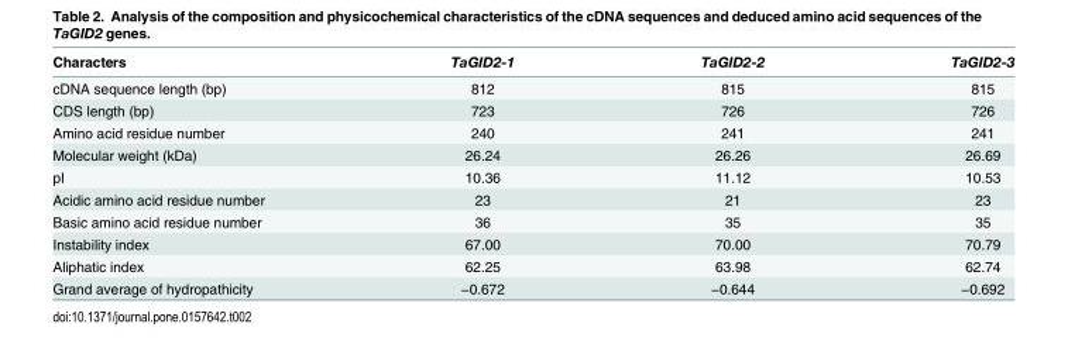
<table><thead><tr><td>Characters</td><td>TaGID2-1</td><td>TaGID2-2</td><td>TaGID2-3</td></tr></thead><tbody><tr><td>cDNA sequence length (bp)</td><td>812</td><td>815</td><td>815</td></tr><tr><td>CDS length (bp)</td><td>723</td><td>726</td><td>726</td></tr><tr><td>Amino acid residue number</td><td>240</td><td>241</td><td>241</td></tr><tr><td>Molecular weight (kDa)</td><td>26.24</td><td>26.26</td><td>26.69</td></tr><tr><td>pI</td><td>10.36</td><td>11.12</td><td>10.53</td></tr><tr><td>Acidic amino acid residue number</td><td>23</td><td>21</td><td>23</td></tr><tr><td>Basic amino acid residue number</td><td>36</td><td>35</td><td>35</td></tr><tr><td>Instability index</td><td>67.00</td><td>70.00</td><td>70.79</td></tr><tr><td>Aliphatic index</td><td>62.25</td><td>63.98</td><td>62.74</td></tr><tr><td>Grand average of hydropathicity</td><td>−0.672</td><td>−0.644</td><td>−0.692</td></tr></tbody></table>